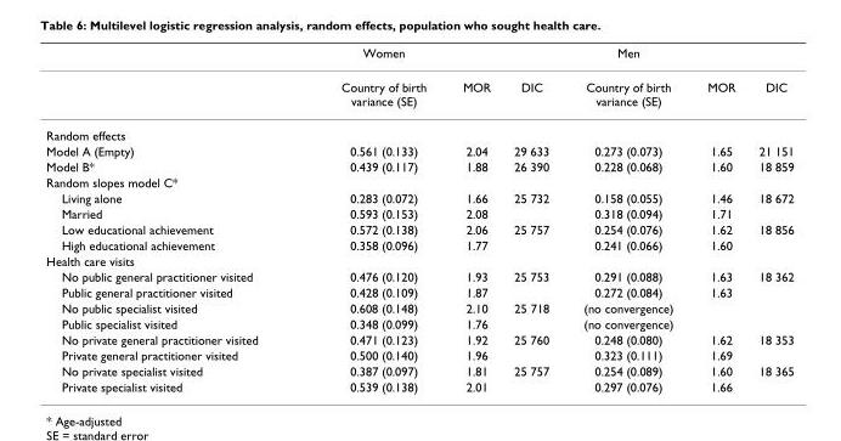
<table><thead><tr><td></td><td>Women</td><td></td><td></td><td>Men</td><td></td><td></td></tr></thead><tbody><tr><td></td><td>Country of birth variance (SE)</td><td>MOR</td><td>DIC</td><td>Country of birth variance (SE)</td><td>MOR</td><td>DIC</td></tr><tr><td colspan="7">Random effects</td></tr><tr><td>Model A (Empty)</td><td>0.561 (0.133)</td><td>2.04</td><td>29 633</td><td>0.273 (0.073)</td><td>1.65</td><td>21 151</td></tr><tr><td>Model B*</td><td>0.439 (0.117)</td><td>1.88</td><td>26 390</td><td>0.228 (0.068)</td><td>1.60</td><td>18 859</td></tr><tr><td colspan="7">Random slopes model C*</td></tr><tr><td>Living alone</td><td>0.283 (0.072)</td><td>1.66</td><td>25 732</td><td>0.158 (0.055)</td><td>1.46</td><td>18 672</td></tr><tr><td>Married</td><td>0.593 (0.153)</td><td>2.08</td><td></td><td>0.318 (0.094)</td><td>1.71</td><td></td></tr><tr><td>Low educational achievement</td><td>0.572 (0.138)</td><td>2.06</td><td>25 757</td><td>0.254 (0.076)</td><td>1.62</td><td>18 856</td></tr><tr><td>High educational achievement</td><td>0.358 (0.096)</td><td>1.77</td><td></td><td>0.241 (0.066)</td><td>1.60</td><td></td></tr><tr><td colspan="7">Health care visits</td></tr><tr><td>No public general practitioner visited</td><td>0.476 (0.120)</td><td>1.93</td><td>25 753</td><td>0.291 (0.088)</td><td>1.63</td><td>18 362</td></tr><tr><td>Public general practitioner visited</td><td>0.428 (0.109)</td><td>1.87</td><td></td><td>0.272 (0.084)</td><td>1.63</td><td></td></tr><tr><td>No public specialist visited</td><td>0.608 (0.148)</td><td>2.10</td><td>25 718</td><td>(no convergence)</td><td></td><td></td></tr><tr><td>Public specialist visited</td><td>0.348 (0.099)</td><td>1.76</td><td></td><td>(no convergence)</td><td></td><td></td></tr><tr><td>No private general practitioner visited</td><td>0.471 (0.123)</td><td>1.92</td><td>25 760</td><td>0.248 (0.080)</td><td>1.62</td><td>18 353</td></tr><tr><td>Private general practitioner visited</td><td>0.500 (0.140)</td><td>1.96</td><td></td><td>0.323 (0.111)</td><td>1.69</td><td></td></tr><tr><td>No private specialist visited</td><td>0.387 (0.097)</td><td>1.81</td><td>25 757</td><td>0.254 (0.089)</td><td>1.60</td><td>18 365</td></tr><tr><td>Private specialist visited</td><td>0.539 (0.138)</td><td>2.01</td><td></td><td>0.297 (0.076)</td><td>1.66</td><td></td></tr></tbody></table>